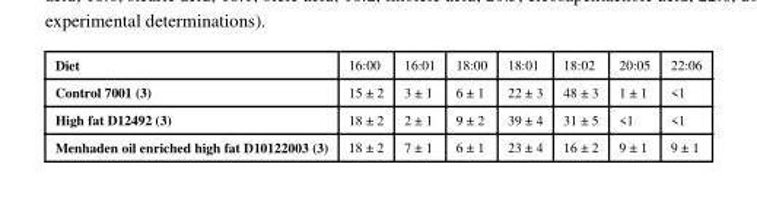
<table><tbody><tr><td>Diet</td><td>16:00</td><td>16:01</td><td>18:00</td><td>18:01</td><td>18:02</td><td>20:05</td><td>22:06</td></tr><tr><td>Control 7001 (3)</td><td>15 ± 2</td><td>3 ± 1</td><td>6 ± 1</td><td>22 ± 3</td><td>48 ± 3</td><td>1 ± 1</td><td>&lt;1</td></tr><tr><td>High fat D12492 (3)</td><td>18 ± 2</td><td>2 ± 1</td><td>9 ± 2</td><td>39 ± 4</td><td>31 ± 5</td><td>&lt;1</td><td>&lt;1</td></tr><tr><td>Menhaden oil enriched high fat D10122003 (3)</td><td>18 ± 2</td><td>7 ± 1</td><td>6 ± 1</td><td>23 ± 4</td><td>16 ± 2</td><td>9 ± 1</td><td>9 ± 1</td></tr></tbody></table>